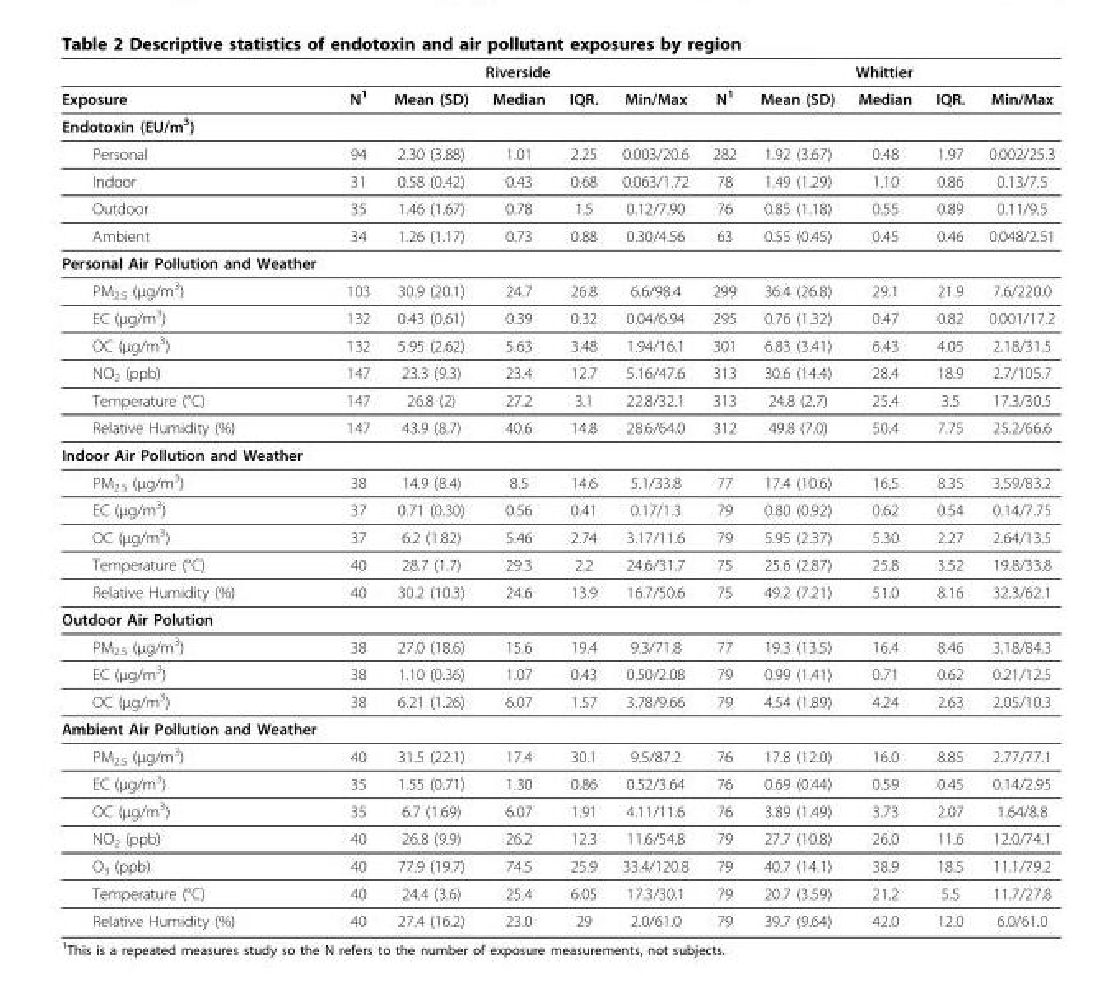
<table><thead><tr><td rowspan="2">Exposure</td><td colspan="5">Riverside</td><td colspan="5">Whittier</td></tr><tr><td>N<sup>1</sup></td><td>Mean (SD)</td><td>Median</td><td>IQR.</td><td>Min/Max</td><td>N<sup>1</sup></td><td>Mean (SD)</td><td>Median</td><td>IQR.</td><td>Min/Max</td></tr></thead><tbody><tr><td colspan="11">Endotoxin (EU/m<sup>3</sup>)</td></tr><tr><td>Personal</td><td>94</td><td>2.30 (3.88)</td><td>1.01</td><td>2.25</td><td>0.003/20.6</td><td>282</td><td>1.92 (3.67)</td><td>0.48</td><td>1.97</td><td>0.002/25.3</td></tr><tr><td>Indoor</td><td>31</td><td>0.58 (0.42)</td><td>0.43</td><td>0.68</td><td>0.063/1.72</td><td>78</td><td>1.49 (1.29)</td><td>1.10</td><td>0.86</td><td>0.13/7.5</td></tr><tr><td>Outdoor</td><td>35</td><td>1.46 (1.67)</td><td>0.78</td><td>1.5</td><td>0.12/7.90</td><td>76</td><td>0.85 (1.18)</td><td>0.55</td><td>0.89</td><td>0.11/9.5</td></tr><tr><td>Ambient</td><td>34</td><td>1.26 (1.17)</td><td>0.73</td><td>0.88</td><td>0.30/4.56</td><td>63</td><td>0.55 (0.45)</td><td>0.45</td><td>0.46</td><td>0.048/2.51</td></tr><tr><td colspan="11">Personal Air Pollution and Weather</td></tr><tr><td>PM<sub>2.5</sub> (μg/m<sup>3</sup>)</td><td>103</td><td>30.9 (20.1)</td><td>24.7</td><td>26.8</td><td>6.6/98.4</td><td>299</td><td>36.4 (26.8)</td><td>29.1</td><td>21.9</td><td>7.6/220.0</td></tr><tr><td>EC (μg/m<sup>3</sup>)</td><td>132</td><td>0.43 (0.61)</td><td>0.39</td><td>0.32</td><td>0.04/6.94</td><td>295</td><td>0.76 (1.32)</td><td>0.47</td><td>0.82</td><td>0.001/17.2</td></tr><tr><td>OC (μg/m<sup>3</sup>)</td><td>132</td><td>5.95 (2.62)</td><td>5.63</td><td>3.48</td><td>1.94/16.1</td><td>301</td><td>6.83 (3.41)</td><td>6.43</td><td>4.05</td><td>2.18/31.5</td></tr><tr><td>NO<sub>2</sub> (ppb)</td><td>147</td><td>23.3 (9.3)</td><td>23.4</td><td>12.7</td><td>5.16/47.6</td><td>313</td><td>30.6 (14.4)</td><td>28.4</td><td>18.9</td><td>2.7/105.7</td></tr><tr><td>Temperature (°C)</td><td>147</td><td>26.8 (2)</td><td>27.2</td><td>3.1</td><td>22.8/32.1</td><td>313</td><td>24.8 (2.7)</td><td>25.4</td><td>3.5</td><td>17.3/30.5</td></tr><tr><td>Relative Humidity (%)</td><td>147</td><td>43.9 (8.7)</td><td>40.6</td><td>14.8</td><td>28.6/64.0</td><td>312</td><td>49.8 (7.0)</td><td>50.4</td><td>7.75</td><td>25.2/66.6</td></tr><tr><td colspan="11">Indoor Air Pollution and Weather</td></tr><tr><td>PM<sub>2.5</sub> (μg/m<sup>3</sup>)</td><td>38</td><td>14.9 (8.4)</td><td>8.5</td><td>14.6</td><td>5.1/33.8</td><td>77</td><td>17.4 (10.6)</td><td>16.5</td><td>8.35</td><td>3.59/83.2</td></tr><tr><td>EC (μg/m<sup>3</sup>)</td><td>37</td><td>0.71 (0.30)</td><td>0.56</td><td>0.41</td><td>0.17/1.3</td><td>79</td><td>0.80 (0.92)</td><td>0.62</td><td>0.54</td><td>0.14/7.75</td></tr><tr><td>OC (μg/m<sup>3</sup>)</td><td>37</td><td>6.2 (1.82)</td><td>5.46</td><td>2.74</td><td>3.17/11.6</td><td>79</td><td>5.95 (2.37)</td><td>5.30</td><td>2.27</td><td>2.64/13.5</td></tr><tr><td>Temperature (°C)</td><td>40</td><td>28.7 (1.7)</td><td>29.3</td><td>2.2</td><td>24.6/31.7</td><td>75</td><td>25.6 (2.87)</td><td>25.8</td><td>3.52</td><td>19.8/33.8</td></tr><tr><td>Relative Humidity (%)</td><td>40</td><td>30.2 (10.3)</td><td>24.6</td><td>13.9</td><td>16.7/50.6</td><td>75</td><td>49.2 (7.21)</td><td>51.0</td><td>8.16</td><td>32.3/62.1</td></tr><tr><td colspan="11">Outdoor Air Polution</td></tr><tr><td>PM<sub>2.5</sub> (μg/m<sup>3</sup>)</td><td>38</td><td>27.0 (18.6)</td><td>15.6</td><td>19.4</td><td>9.3/71.8</td><td>77</td><td>19.3 (13.5)</td><td>16.4</td><td>8.46</td><td>3.18/84.3</td></tr><tr><td>EC (μg/m<sup>3</sup>)</td><td>38</td><td>1.10 (0.36)</td><td>1.07</td><td>0.43</td><td>0.50/2.08</td><td>79</td><td>0.99 (1.41)</td><td>0.71</td><td>0.62</td><td>0.21/12.5</td></tr><tr><td>OC (μg/m<sup>3</sup>)</td><td>38</td><td>6.21 (1.26)</td><td>6.07</td><td>1.57</td><td>3.78/9.66</td><td>79</td><td>4.54 (1.89)</td><td>4.24</td><td>2.63</td><td>2.05/10.3</td></tr><tr><td colspan="11">Ambient Air Pollution and Weather</td></tr><tr><td>PM<sub>2.5</sub> (μg/m<sup>3</sup>)</td><td>40</td><td>31.5 (22.1)</td><td>17.4</td><td>30.1</td><td>9.5/87.2</td><td>76</td><td>17.8 (12.0)</td><td>16.0</td><td>8.85</td><td>2.77/77.1</td></tr><tr><td>EC (μg/m<sup>3</sup>)</td><td>35</td><td>1.55 (0.71)</td><td>1.30</td><td>0.86</td><td>0.52/3.64</td><td>76</td><td>0.69 (0.44)</td><td>0.59</td><td>0.45</td><td>0.14/2.95</td></tr><tr><td>OC (μg/m<sup>3</sup>)</td><td>35</td><td>6.7 (1.69)</td><td>6.07</td><td>1.91</td><td>4.11/11.6</td><td>76</td><td>3.89 (1.49)</td><td>3.73</td><td>2.07</td><td>1.64/8.8</td></tr><tr><td>NO<sub>2</sub> (ppb)</td><td>40</td><td>26.8 (9.9)</td><td>26.2</td><td>12.3</td><td>11.6/54.8</td><td>79</td><td>27.7 (10.8)</td><td>26.0</td><td>11.6</td><td>12.0/74.1</td></tr><tr><td>O<sub>3</sub> (ppb)</td><td>40</td><td>77.9 (19.7)</td><td>74.5</td><td>25.9</td><td>33.4/120.8</td><td>79</td><td>40.7 (14.1)</td><td>38.9</td><td>18.5</td><td>11.1/79.2</td></tr><tr><td>Temperature (°C)</td><td>40</td><td>24.4 (3.6)</td><td>25.4</td><td>6.05</td><td>17.3/30.1</td><td>79</td><td>20.7 (3.59)</td><td>21.2</td><td>5.5</td><td>11.7/27.8</td></tr><tr><td>Relative Humidity (%)</td><td>40</td><td>27.4 (16.2)</td><td>23.0</td><td>29</td><td>2.0/61.0</td><td>79</td><td>39.7 (9.64)</td><td>42.0</td><td>12.0</td><td>6.0/61.0</td></tr></tbody></table>